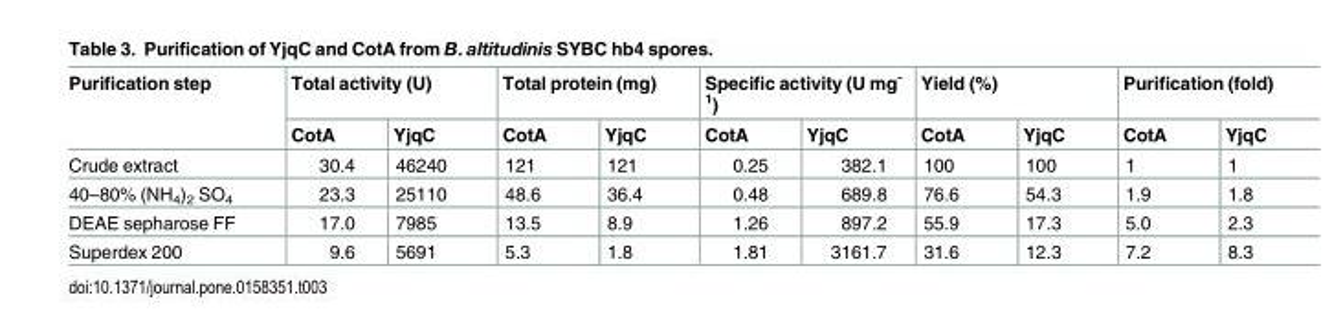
<table><thead><tr><td rowspan="2">Purification step</td><td colspan="2">Total activity (U)</td><td colspan="2">Total protein (mg)</td><td colspan="2">Specific activity (U mg<sup>- 1</sup>)</td><td colspan="2">Yield (%)</td><td colspan="2">Purification (fold)</td></tr><tr><td>CotA</td><td>YjqC</td><td>CotA</td><td>YjqC</td><td>CotA</td><td>YjqC</td><td>CotA</td><td>YjqC</td><td>CotA</td><td>YjqC</td></tr></thead><tbody><tr><td>Crude extract</td><td>30.4</td><td>46240</td><td>121</td><td>121</td><td>0.25</td><td>382.1</td><td>100</td><td>100</td><td>1</td><td>1</td></tr><tr><td>40–80% (NH<sub>4</sub>)<sub>2</sub> SO<sub>4</sub></td><td>23.3</td><td>25110</td><td>48.6</td><td>36.4</td><td>0.48</td><td>689.8</td><td>76.6</td><td>54.3</td><td>1.9</td><td>1.8</td></tr><tr><td>DEAE sepharose FF</td><td>17.0</td><td>7985</td><td>13.5</td><td>8.9</td><td>1.26</td><td>897.2</td><td>55.9</td><td>17.3</td><td>5.0</td><td>2.3</td></tr><tr><td>Superdex 200</td><td>9.6</td><td>5691</td><td>5.3</td><td>1.8</td><td>1.81</td><td>3161.7</td><td>31.6</td><td>12.3</td><td>7.2</td><td>8.3</td></tr></tbody></table>